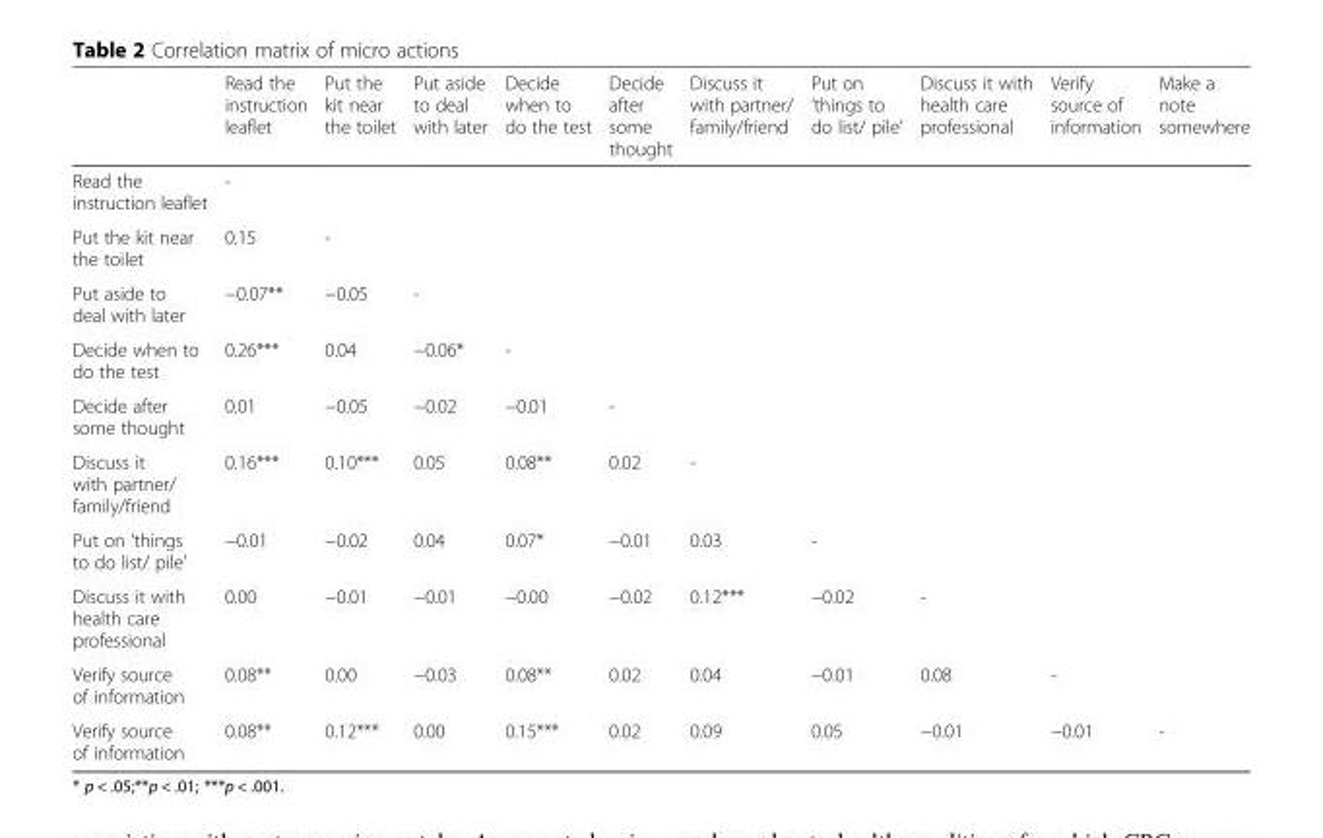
<table><thead><tr><td></td><td>Read the instruction leaflet</td><td>Put the kit near the toilet</td><td>Put aside to deal with later</td><td>Decide when to do the test</td><td>Decide after some thought</td><td>Discuss it with partner/ family/friend</td><td>Put on ‘things to do list/ pile’</td><td>Discuss it with health care professional</td><td>Verify source of information</td><td>Make a note somewhere</td></tr></thead><tbody><tr><td>Read the instruction leaflet</td><td>-</td><td></td><td></td><td></td><td></td><td></td><td></td><td></td><td></td><td></td></tr><tr><td>Put the kit near the toilet</td><td>0.15</td><td>-</td><td></td><td></td><td></td><td></td><td></td><td></td><td></td><td></td></tr><tr><td>Put aside to deal with later</td><td>−0.07**</td><td>−0.05</td><td>-</td><td></td><td></td><td></td><td></td><td></td><td></td><td></td></tr><tr><td>Decide when to do the test</td><td>0.26***</td><td>0.04</td><td>−0.06*</td><td>-</td><td></td><td></td><td></td><td></td><td></td><td></td></tr><tr><td>Decide after some thought</td><td>0.01</td><td>−0.05</td><td>−0.02</td><td>−0.01</td><td>-</td><td></td><td></td><td></td><td></td><td></td></tr><tr><td>Discuss it with partner/ family/friend</td><td>0.16***</td><td>0.10***</td><td>0.05</td><td>0.08**</td><td>0.02</td><td>-</td><td></td><td></td><td></td><td></td></tr><tr><td>Put on ‘things to do list/ pile’</td><td>−0.01</td><td>−0.02</td><td>0.04</td><td>0.07*</td><td>−0.01</td><td>0.03</td><td>-</td><td></td><td></td><td></td></tr><tr><td>Discuss it with health care professional</td><td>0.00</td><td>−0.01</td><td>−0.01</td><td>−0.00</td><td>−0.02</td><td>0.12***</td><td>−0.02</td><td>-</td><td></td><td></td></tr><tr><td>Verify source of information</td><td>0.08**</td><td>0.00</td><td>−0.03</td><td>0.08**</td><td>0.02</td><td>0.04</td><td>−0.01</td><td>0.08</td><td>-</td><td></td></tr><tr><td>Verify source of information</td><td>0.08**</td><td>0.12***</td><td>0.00</td><td>0.15***</td><td>0.02</td><td>0.09</td><td>0.05</td><td>−0.01</td><td>−0.01</td><td>-</td></tr></tbody></table>